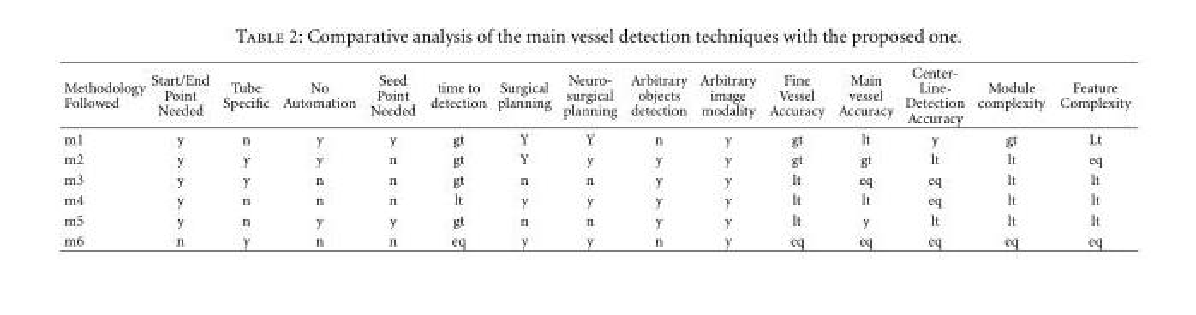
<table><thead><tr><td>Methodology Followed</td><td>Start/End Point Needed</td><td>Tube Specific</td><td>No Automation</td><td>Seed Point Needed</td><td>time to detection</td><td>Surgical planning</td><td>Neuro- surgical planning</td><td>Arbitrary objects detection</td><td>Arbitrary image modality</td><td>Fine Vessel Accuracy</td><td>Main vessel Accuracy</td><td>Center- Line- Detection Accuracy</td><td>Module complexity</td><td>Feature Complexity</td></tr></thead><tbody><tr><td>m1</td><td>y</td><td>n</td><td>y</td><td>y</td><td>gt</td><td>Y</td><td>Y</td><td>n</td><td>y</td><td>gt</td><td>lt</td><td>y</td><td>gt</td><td>Lt</td></tr><tr><td>m2</td><td>y</td><td>y</td><td>y</td><td>n</td><td>gt</td><td>Y</td><td>y</td><td>y</td><td>y</td><td>gt</td><td>gt</td><td>lt</td><td>lt</td><td>eq</td></tr><tr><td>m3</td><td>y</td><td>y</td><td>n</td><td>n</td><td>gt</td><td>n</td><td>n</td><td>y</td><td>y</td><td>lt</td><td>eq</td><td>eq</td><td>lt</td><td>lt</td></tr><tr><td>m4</td><td>y</td><td>n</td><td>n</td><td>n</td><td>lt</td><td>y</td><td>y</td><td>y</td><td>y</td><td>lt</td><td>lt</td><td>eq</td><td>lt</td><td>lt</td></tr><tr><td>m5</td><td>y</td><td>n</td><td>y</td><td>y</td><td>gt</td><td>n</td><td>n</td><td>y</td><td>y</td><td>lt</td><td>y</td><td>lt</td><td>lt</td><td>lt</td></tr><tr><td>m6</td><td>n</td><td>y</td><td>n</td><td>n</td><td>eq</td><td>y</td><td>y</td><td>n</td><td>y</td><td>eq</td><td>eq</td><td>eq</td><td>eq</td><td>eq</td></tr></tbody></table>